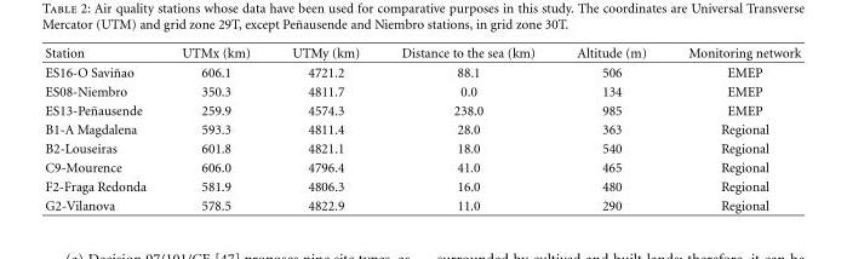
<table><thead><tr><td>Station</td><td>UTMx (km)</td><td>UTMy (km)</td><td>Distance to the sea (km)</td><td>Altitude (m)</td><td>Monitoring network</td></tr></thead><tbody><tr><td>ES16-O Savi˜nao</td><td>606.1</td><td>4721.2</td><td>88.1</td><td>506</td><td>EMEP</td></tr><tr><td>ES08-Niembro</td><td>350.3</td><td>4811.7</td><td>0.0</td><td>134</td><td>EMEP</td></tr><tr><td>ES13-Pe˜nausende</td><td>259.9</td><td>4574.3</td><td>238.0</td><td>985</td><td>EMEP</td></tr><tr><td>B1-A Magdalena</td><td>593.3</td><td>4811.4</td><td>28.0</td><td>363</td><td>Regional</td></tr><tr><td>B2-Louseiras</td><td>601.8</td><td>4821.1</td><td>18.0</td><td>540</td><td>Regional</td></tr><tr><td>C9-Mourence</td><td>606.0</td><td>4796.4</td><td>41.0</td><td>465</td><td>Regional</td></tr><tr><td>F2-Fraga Redonda</td><td>581.9</td><td>4806.3</td><td>16.0</td><td>480</td><td>Regional</td></tr><tr><td>G2-Vilanova</td><td>578.5</td><td>4822.9</td><td>11.0</td><td>290</td><td>Regional</td></tr></tbody></table>